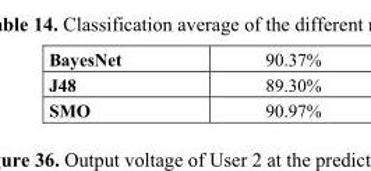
<table><tbody><tr><td>BayesNet</td><td>90.37%</td></tr><tr><td>J48</td><td>89.30%</td></tr><tr><td>SMO</td><td>90.97%</td></tr></tbody></table>